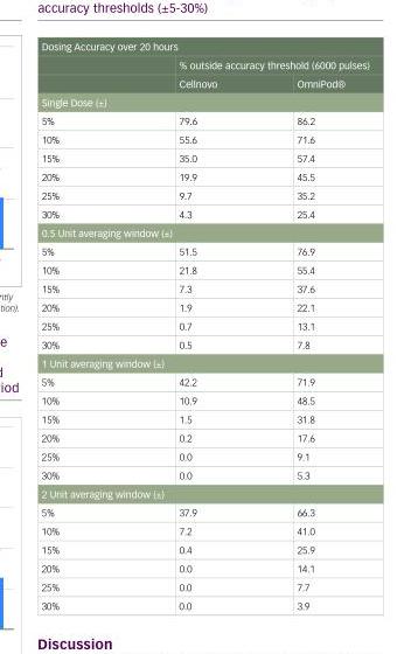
<table><thead><tr><td colspan="3">Dosing Accuracy over 20 hours</td></tr><tr><td rowspan="2"></td><td colspan="2">% outside accuracy threshold (6000 pulses)</td></tr><tr><td>Cellnovo</td><td>OmniPod®</td></tr></thead><tbody><tr><td colspan="3">Single Dose (±)</td></tr><tr><td>5%</td><td>79.6</td><td>86.2</td></tr><tr><td>10%</td><td>55.6</td><td>71.6</td></tr><tr><td>15%</td><td>35.0</td><td>57.4</td></tr><tr><td>20%</td><td>19.9</td><td>45.5</td></tr><tr><td>25%</td><td>9.7</td><td>35.2</td></tr><tr><td>30%</td><td>4.3</td><td>25.4</td></tr><tr><td colspan="3">0.5 Unit averaging window (±)</td></tr><tr><td>5%</td><td>51.5</td><td>76.9</td></tr><tr><td>10%</td><td>21.8</td><td>55.4</td></tr><tr><td>15%</td><td>7.3</td><td>37.6</td></tr><tr><td>20%</td><td>1.9</td><td>22.1</td></tr><tr><td>25%</td><td>0.7</td><td>13.1</td></tr><tr><td>30%</td><td>0.5</td><td>7.8</td></tr><tr><td colspan="3">1 Unit averaging window (±)</td></tr><tr><td>5%</td><td>42.2</td><td>71.9</td></tr><tr><td>10%</td><td>10.9</td><td>48.5</td></tr><tr><td>15%</td><td>1.5</td><td>31.8</td></tr><tr><td>20%</td><td>0.2</td><td>17.6</td></tr><tr><td>25%</td><td>0.0</td><td>9.1</td></tr><tr><td>30%</td><td>0.0</td><td>5.3</td></tr><tr><td colspan="3">2 Unit averaging window (±)</td></tr><tr><td>5%</td><td>37.9</td><td>66.3</td></tr><tr><td>10%</td><td>7.2</td><td>41.0</td></tr><tr><td>15%</td><td>0.4</td><td>25.9</td></tr><tr><td>20%</td><td>0.0</td><td>14.1</td></tr><tr><td>25%</td><td>0.0</td><td>7.7</td></tr><tr><td>30%</td><td>0.0</td><td>3.9</td></tr></tbody></table>